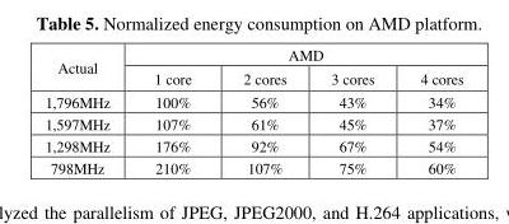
<table><thead><tr><td rowspan="2">Actual</td><td colspan="4">AMD</td></tr><tr><td>1 core</td><td>2 cores</td><td>3 cores</td><td>4 cores</td></tr></thead><tbody><tr><td>1,796MHz</td><td>100%</td><td>56%</td><td>43%</td><td>34%</td></tr><tr><td>1,597MHz</td><td>107%</td><td>61%</td><td>45%</td><td>37%</td></tr><tr><td>1,298MHz</td><td>176%</td><td>92%</td><td>67%</td><td>54%</td></tr><tr><td>798MHz</td><td>210%</td><td>107%</td><td>75%</td><td>60%</td></tr></tbody></table>